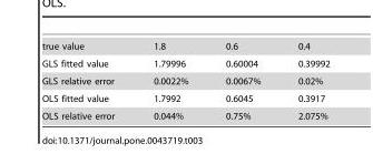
<table><tbody><tr><td>true value</td><td>1.8</td><td>0.6</td><td>0.4</td></tr><tr><td>GLS fitted value</td><td>1.79996</td><td>0.60004</td><td>0.39992</td></tr><tr><td>GLS relative error</td><td>0.0022%</td><td>0.0067%</td><td>0.02%</td></tr><tr><td>OLS fitted value</td><td>1.7992</td><td>0.6045</td><td>0.3917</td></tr><tr><td>OLS relative error</td><td>0.044%</td><td>0.75%</td><td>2.075%</td></tr></tbody></table>